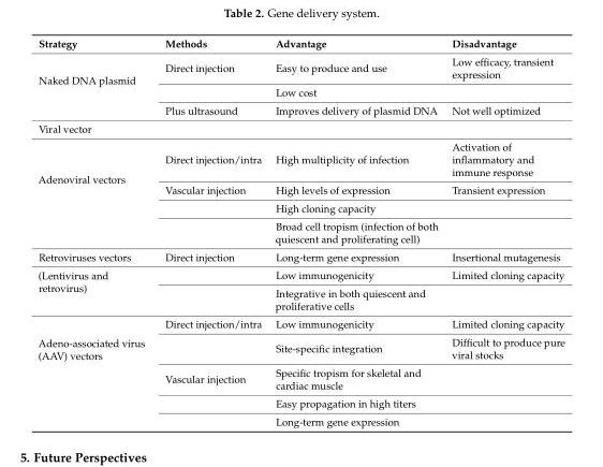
<table><thead><tr><td>Strategy</td><td>Methods</td><td>Advantage</td><td>Disadvantage</td></tr></thead><tbody><tr><td rowspan="3">Naked DNA plasmid</td><td>Direct injection</td><td>Easy to produce and use</td><td>Low efficacy, transient expression</td></tr><tr><td></td><td>Low cost</td><td></td></tr><tr><td>Plus ultrasound</td><td>Improves delivery of plasmid DNA</td><td>Not well optimized</td></tr><tr><td colspan="4">Viral vector</td></tr><tr><td rowspan="4">Adenoviral vectors</td><td>Direct injection/intra</td><td>High multiplicity of infection</td><td>Activation of inflammatory and immune response</td></tr><tr><td>Vascular injection</td><td>High levels of expression</td><td>Transient expression</td></tr><tr><td></td><td>High cloning capacity</td><td></td></tr><tr><td></td><td>Broad cell tropism (infection of both quiescent and proliferating cell)</td><td></td></tr><tr><td>Retroviruses vectors</td><td>Direct injection</td><td>Long-term gene expression</td><td>Insertional mutagenesis</td></tr><tr><td rowspan="2">(Lentivirus and retrovirus)</td><td></td><td>Low immunogenicity</td><td>Limited cloning capacity</td></tr><tr><td></td><td>Integrative in both quiescent and proliferative cells</td><td></td></tr><tr><td rowspan="5">Adeno-associated virus (AAV) vectors</td><td>Direct injection/intra</td><td>Low immunogenicity</td><td>Limited cloning capacity</td></tr><tr><td></td><td>Site-specific integration</td><td>Difficult to produce pure viral stocks</td></tr><tr><td>Vascular injection</td><td>Specific tropism for skeletal and cardiac muscle</td><td></td></tr><tr><td></td><td>Easy propagation in high titers</td><td></td></tr><tr><td></td><td>Long-term gene expression</td><td></td></tr></tbody></table>